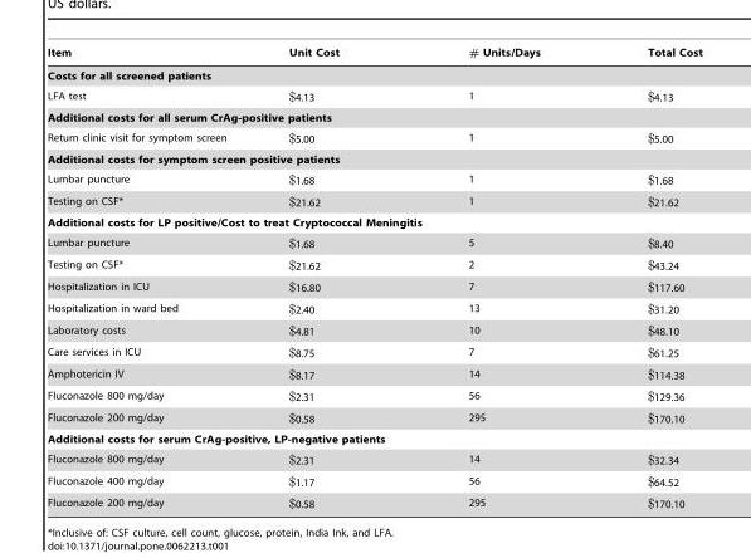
<table><thead><tr><td>Item</td><td>Unit Cost</td><td># Units/Days</td><td>Total Cost</td></tr></thead><tbody><tr><td colspan="4">Costs for all screened patients</td></tr><tr><td>LFA test</td><td>$4.13</td><td>1</td><td>$4.13</td></tr><tr><td colspan="4">Additional costs for all serum CrAg-positive patients</td></tr><tr><td>Return clinic visit for symptom screen</td><td>$5.00</td><td>1</td><td>$5.00</td></tr><tr><td colspan="4">Additional costs for symptom screen positive patients</td></tr><tr><td>Lumbar puncture</td><td>$1.68</td><td>1</td><td>$1.68</td></tr><tr><td>Testing on CSF*</td><td>$21.62</td><td>1</td><td>$21.62</td></tr><tr><td colspan="4">Additional costs for LP positive/Cost to treat Cryptococcal Meningitis</td></tr><tr><td>Lumbar puncture</td><td>$1.68</td><td>5</td><td>$8.40</td></tr><tr><td>Testing on CSF*</td><td>$21.62</td><td>2</td><td>$43.24</td></tr><tr><td>Hospitalization in ICU</td><td>$16.80</td><td>7</td><td>$117.60</td></tr><tr><td>Hospitalization in ward bed</td><td>$2.40</td><td>13</td><td>$31.20</td></tr><tr><td>Laboratory costs</td><td>$4.81</td><td>10</td><td>$48.10</td></tr><tr><td>Care services in ICU</td><td>$8.75</td><td>7</td><td>$61.25</td></tr><tr><td>Amphotericin IV</td><td>$8.17</td><td>14</td><td>$114.38</td></tr><tr><td>Fluconazole 800 mg/day</td><td>$2.31</td><td>56</td><td>$129.36</td></tr><tr><td>Fluconazole 200 mg/day</td><td>$0.58</td><td>295</td><td>$170.10</td></tr><tr><td colspan="4">Additional costs for serum CrAg-positive, LP-negative patients</td></tr><tr><td>Fluconazole 800 mg/day</td><td>$2.31</td><td>14</td><td>$32.34</td></tr><tr><td>Fluconazole 400 mg/day</td><td>$1.17</td><td>56</td><td>$64.52</td></tr><tr><td>Fluconazole 200 mg/day</td><td>$0.58</td><td>295</td><td>$170.10</td></tr></tbody></table>